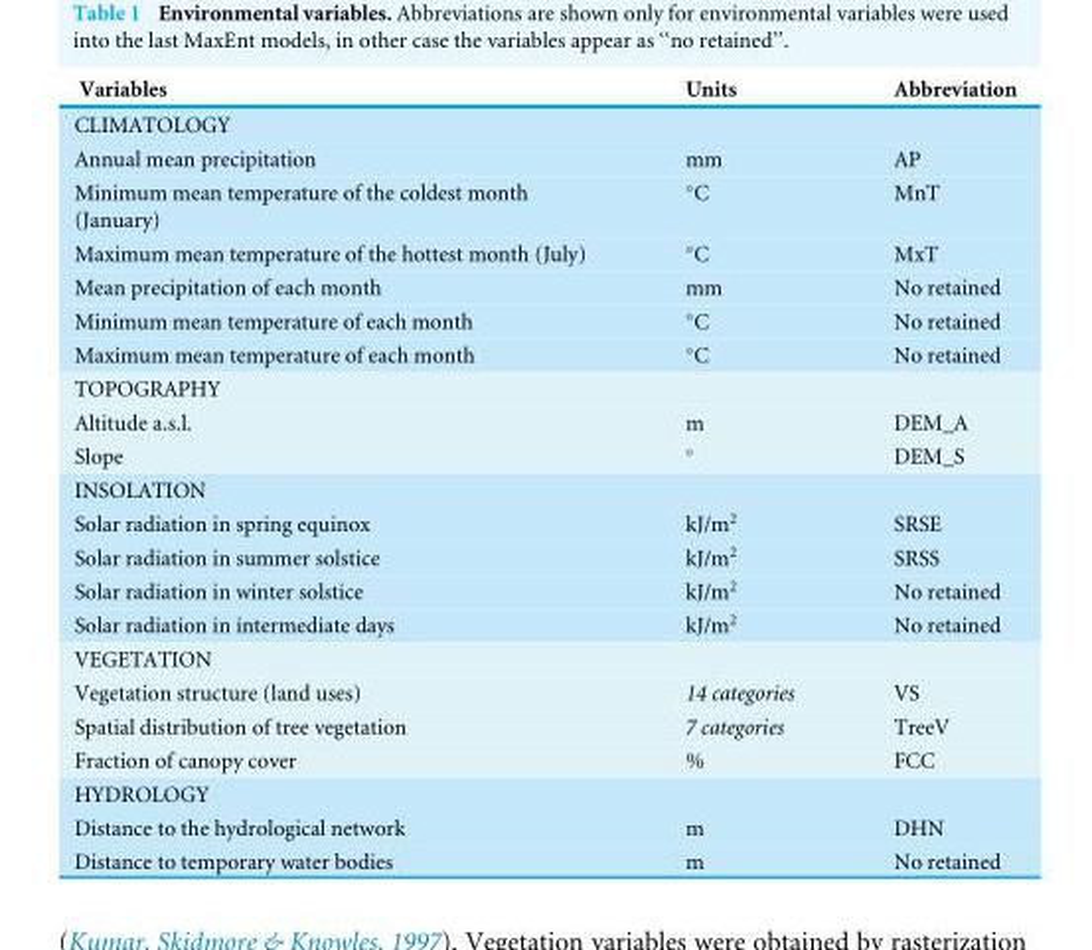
<table><thead><tr><td>Variables</td><td>Units</td><td>Abbreviation</td></tr></thead><tbody><tr><td colspan="3">CLIMATOLOGY</td></tr><tr><td>Annual mean precipitation</td><td>mm</td><td>AP</td></tr><tr><td>Minimum mean temperature of the coldest month (January)</td><td>◦C</td><td>MnT</td></tr><tr><td>Maximum mean temperature of the hottest month (July)</td><td>◦C</td><td>MxT</td></tr><tr><td>Mean precipitation of each month</td><td>mm</td><td>No retained</td></tr><tr><td>Minimum mean temperature of each month</td><td>◦C</td><td>No retained</td></tr><tr><td>Maximum mean temperature of each month</td><td>◦C</td><td>No retained</td></tr><tr><td colspan="3">TOPOGRAPHY</td></tr><tr><td>Altitude a.s.l.</td><td>m</td><td>DEM_A</td></tr><tr><td>Slope</td><td>◦</td><td>DEM_S</td></tr><tr><td colspan="3">INSOLATION</td></tr><tr><td>Solar radiation in spring equinox</td><td>kJ/m<sup>2</sup></td><td>SRSE</td></tr><tr><td>Solar radiation in summer solstice</td><td>kJ/m<sup>2</sup></td><td>SRSS</td></tr><tr><td>Solar radiation in winter solstice</td><td>kJ/m<sup>2</sup></td><td>No retained</td></tr><tr><td>Solar radiation in intermediate days</td><td>kJ/m<sup>2</sup></td><td>No retained</td></tr><tr><td colspan="3">VEGETATION</td></tr><tr><td>Vegetation structure (land uses)</td><td>14 categories</td><td>VS</td></tr><tr><td>Spatial distribution of tree vegetation</td><td>7 categories</td><td>TreeV</td></tr><tr><td>Fraction of canopy cover</td><td>%</td><td>FCC</td></tr><tr><td colspan="3">HYDROLOGY</td></tr><tr><td>Distance to the hydrological network</td><td>m</td><td>DHN</td></tr><tr><td>Distance to temporary water bodies</td><td>m</td><td>No retained</td></tr></tbody></table>